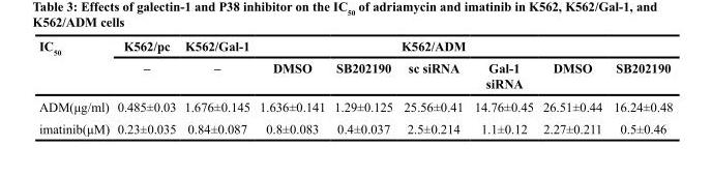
<table><thead><tr><td rowspan="2">IC<sub>50</sub></td><td rowspan="2">K562/pc –</td><td rowspan="2">K562/Gal-1 –</td><td colspan="6">K562/ADM</td></tr><tr><td>DMSO</td><td>SB202190</td><td>sc siRNA</td><td>Gal-1 siRNA</td><td>DMSO</td><td>SB202190</td></tr></thead><tbody><tr><td>ADM(μg/ml)</td><td>0.485±0.03</td><td>1.676±0.145</td><td>1.636±0.141</td><td>1.29±0.125</td><td>25.56±0.41</td><td>14.76±0.45</td><td>26.51±0.44</td><td>16.24±0.48</td></tr><tr><td>imatinib(μM)</td><td>0.23±0.035</td><td>0.84±0.087</td><td>0.8±0.083</td><td>0.4±0.037</td><td>2.5±0.214</td><td>1.1±0.12</td><td>2.27±0.211</td><td>0.5±0.46</td></tr></tbody></table>